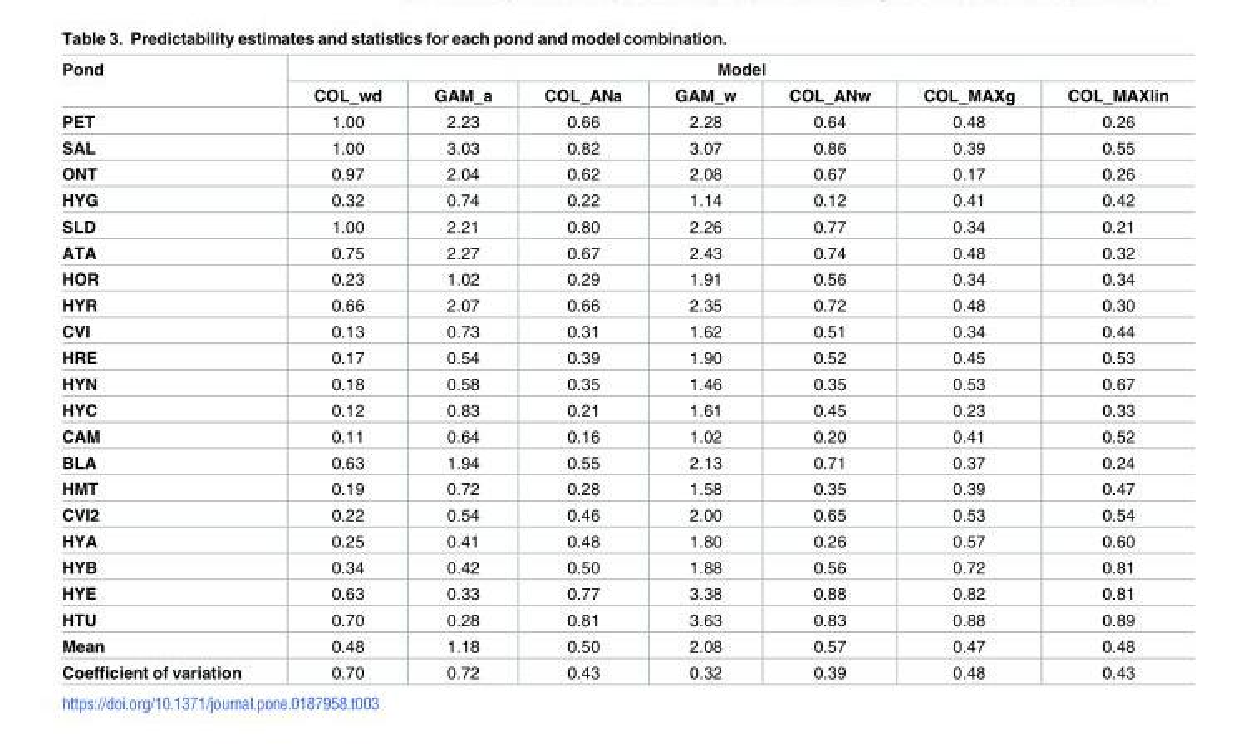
<table><thead><tr><td rowspan="2">Pond</td><td colspan="7">Model</td></tr><tr><td>COL_wd</td><td>GAM_a</td><td>COL_ANa</td><td>GAM_w</td><td>COL_ANw</td><td>COL_MAXg</td><td>COL_MAXlin</td></tr></thead><tbody><tr><td>PET</td><td>1.00</td><td>2.23</td><td>0.66</td><td>2.28</td><td>0.64</td><td>0.48</td><td>0.26</td></tr><tr><td>SAL</td><td>1.00</td><td>3.03</td><td>0.82</td><td>3.07</td><td>0.86</td><td>0.39</td><td>0.55</td></tr><tr><td>ONT</td><td>0.97</td><td>2.04</td><td>0.62</td><td>2.08</td><td>0.67</td><td>0.17</td><td>0.26</td></tr><tr><td>HYG</td><td>0.32</td><td>0.74</td><td>0.22</td><td>1.14</td><td>0.12</td><td>0.41</td><td>0.42</td></tr><tr><td>SLD</td><td>1.00</td><td>2.21</td><td>0.80</td><td>2.26</td><td>0.77</td><td>0.34</td><td>0.21</td></tr><tr><td>ATA</td><td>0.75</td><td>2.27</td><td>0.67</td><td>2.43</td><td>0.74</td><td>0.48</td><td>0.32</td></tr><tr><td>HOR</td><td>0.23</td><td>1.02</td><td>0.29</td><td>1.91</td><td>0.56</td><td>0.34</td><td>0.34</td></tr><tr><td>HYR</td><td>0.66</td><td>2.07</td><td>0.66</td><td>2.35</td><td>0.72</td><td>0.48</td><td>0.30</td></tr><tr><td>CVI</td><td>0.13</td><td>0.73</td><td>0.31</td><td>1.62</td><td>0.51</td><td>0.34</td><td>0.44</td></tr><tr><td>HRE</td><td>0.17</td><td>0.54</td><td>0.39</td><td>1.90</td><td>0.52</td><td>0.45</td><td>0.53</td></tr><tr><td>HYN</td><td>0.18</td><td>0.58</td><td>0.35</td><td>1.46</td><td>0.35</td><td>0.53</td><td>0.67</td></tr><tr><td>HYC</td><td>0.12</td><td>0.83</td><td>0.21</td><td>1.61</td><td>0.45</td><td>0.23</td><td>0.33</td></tr><tr><td>CAM</td><td>0.11</td><td>0.64</td><td>0.16</td><td>1.02</td><td>0.20</td><td>0.41</td><td>0.52</td></tr><tr><td>BLA</td><td>0.63</td><td>1.94</td><td>0.55</td><td>2.13</td><td>0.71</td><td>0.37</td><td>0.24</td></tr><tr><td>HMT</td><td>0.19</td><td>0.72</td><td>0.28</td><td>1.58</td><td>0.35</td><td>0.39</td><td>0.47</td></tr><tr><td>CVI2</td><td>0.22</td><td>0.54</td><td>0.46</td><td>2.00</td><td>0.65</td><td>0.53</td><td>0.54</td></tr><tr><td>HYA</td><td>0.25</td><td>0.41</td><td>0.48</td><td>1.80</td><td>0.26</td><td>0.57</td><td>0.60</td></tr><tr><td>HYB</td><td>0.34</td><td>0.42</td><td>0.50</td><td>1.88</td><td>0.56</td><td>0.72</td><td>0.81</td></tr><tr><td>HYE</td><td>0.63</td><td>0.33</td><td>0.77</td><td>3.38</td><td>0.88</td><td>0.82</td><td>0.81</td></tr><tr><td>HTU</td><td>0.70</td><td>0.28</td><td>0.81</td><td>3.63</td><td>0.83</td><td>0.88</td><td>0.89</td></tr><tr><td>Mean</td><td>0.48</td><td>1.18</td><td>0.50</td><td>2.08</td><td>0.57</td><td>0.47</td><td>0.48</td></tr><tr><td>Coefficient of variation</td><td>0.70</td><td>0.72</td><td>0.43</td><td>0.32</td><td>0.39</td><td>0.48</td><td>0.43</td></tr></tbody></table>